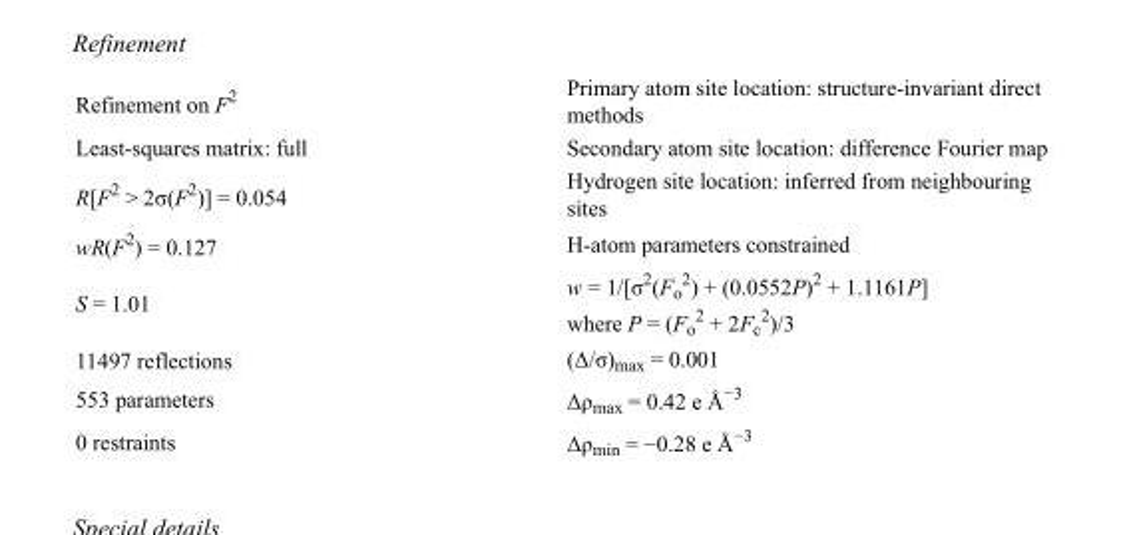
<table><tbody><tr><td>Refinement on F<sup>2</sup></td><td>Primary atom site location: structure-invariant direct methods</td></tr><tr><td>Least-squares matrix: full</td><td>Secondary atom site location: difference Fourier map</td></tr><tr><td>R[F<sup>2</sup> &gt; 2σ(F<sup>2</sup>)] = 0.054</td><td>Hydrogen site location: inferred from neighbouring sites</td></tr><tr><td>wR(F<sup>2</sup>) = 0.127</td><td>H-atom parameters constrained</td></tr><tr><td>S = 1.01</td><td>w = 1/[σ<sup>2</sup>(F<sub>o</sub> <sup>2</sup>) + (0.0552P)<sup>2</sup> + 1.1161P] where P = (F<sub>o</sub> <sup>2</sup> + 2F<sub>c</sub> <sup>2</sup>)/3</td></tr><tr><td>11497 reflections</td><td>(Δ/σ)<sub>max</sub> = 0.001</td></tr><tr><td>553 parameters</td><td>Δρ<sub>max</sub> = 0.42 e Å<sup>−3</sup></td></tr><tr><td>0 restraints</td><td>Δρ<sub>min</sub> = −0.28 e Å<sup>−3</sup></td></tr></tbody></table>